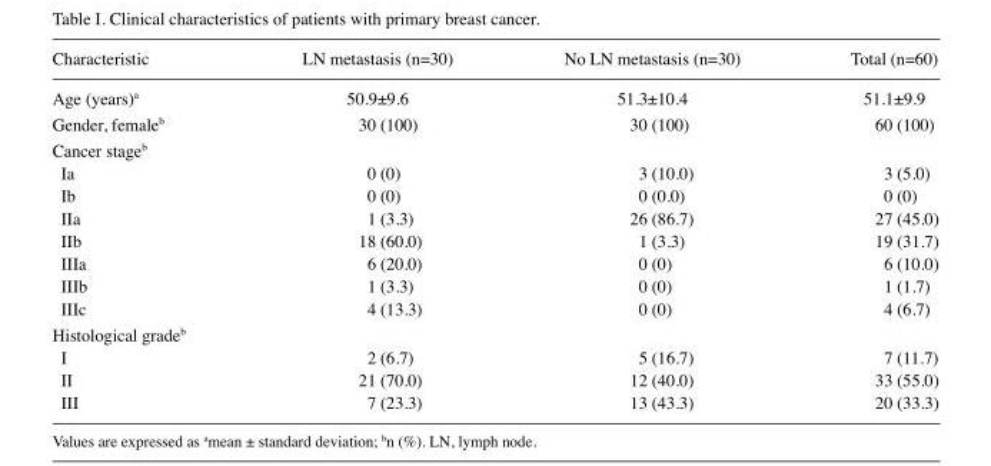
<table><thead><tr><td>Characteristic</td><td>LN metastasis (n=30)</td><td>No LN metastasis (n=30)</td><td>Total (n=60)</td></tr></thead><tbody><tr><td>Age (years)<sup>a</sup></td><td>50.9±9.6</td><td>51.3±10.4</td><td>51.1±9.9</td></tr><tr><td>Gender, female<sup>b</sup></td><td>30 (100)</td><td>30 (100)</td><td>60 (100)</td></tr><tr><td colspan="4">Cancer stage<sup>b</sup></td></tr><tr><td>Ia</td><td>0 (0)</td><td>3 (10.0)</td><td>3 (5.0)</td></tr><tr><td>Ib</td><td>0 (0)</td><td>0 (0.0)</td><td>0 (0)</td></tr><tr><td>IIa</td><td>1 (3.3)</td><td>26 (86.7)</td><td>27 (45.0)</td></tr><tr><td>IIb</td><td>18 (60.0)</td><td>1 (3.3)</td><td>19 (31.7)</td></tr><tr><td>IIIa</td><td>6 (20.0)</td><td>0 (0)</td><td>6 (10.0)</td></tr><tr><td>IIIb</td><td>1 (3.3)</td><td>0 (0)</td><td>1 (1.7)</td></tr><tr><td>IIIc</td><td>4 (13.3)</td><td>0 (0)</td><td>4 (6.7)</td></tr><tr><td colspan="4">Histological grade<sup>b</sup></td></tr><tr><td>I</td><td>2 (6.7)</td><td>5 (16.7)</td><td>7 (11.7)</td></tr><tr><td>II</td><td>21 (70.0)</td><td>12 (40.0)</td><td>33 (55.0)</td></tr><tr><td>III</td><td>7 (23.3)</td><td>13 (43.3)</td><td>20 (33.3)</td></tr></tbody></table>